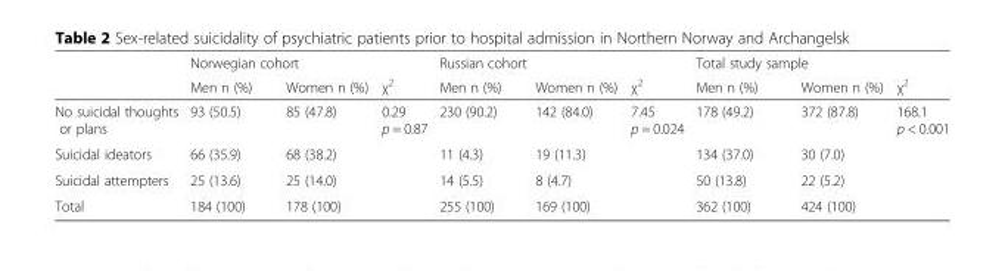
<table><thead><tr><td rowspan="2"></td><td colspan="3">Norwegian cohort</td><td colspan="3">Russian cohort</td><td colspan="3">Total study sample</td></tr><tr><td>Men n (%)</td><td>Women n (%)</td><td>χ<sup>2</sup></td><td>Men n (%)</td><td>Women n (%)</td><td>χ<sup>2</sup></td><td>Men n (%)</td><td>Women n (%)</td><td>χ<sup>2</sup></td></tr></thead><tbody><tr><td>No suicidal thoughts or plans</td><td>93 (50.5)</td><td>85 (47.8)</td><td rowspan="4">0.29 p = 0.87</td><td>230 (90.2)</td><td>142 (84.0)</td><td rowspan="4">7.45 p = 0.024</td><td>178 (49.2)</td><td>372 (87.8)</td><td rowspan="4">168.1 p &lt; 0.001</td></tr><tr><td>Suicidal ideators</td><td>66 (35.9)</td><td>68 (38.2)</td><td>11 (4.3)</td><td>19 (11.3)</td><td>134 (37.0)</td><td>30 (7.0)</td></tr><tr><td>Suicidal attempters</td><td>25 (13.6)</td><td>25 (14.0)</td><td>14 (5.5)</td><td>8 (4.7)</td><td>50 (13.8)</td><td>22 (5.2)</td></tr><tr><td>Total</td><td>184 (100)</td><td>178 (100)</td><td>255 (100)</td><td>169 (100)</td><td>362 (100)</td><td>424 (100)</td></tr></tbody></table>